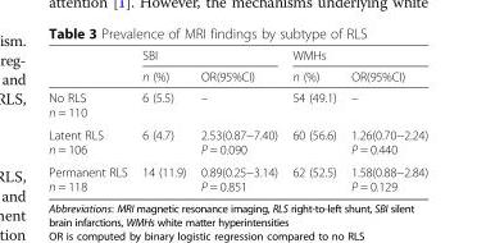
<table><thead><tr><td rowspan="2"></td><td colspan="2">SBI</td><td colspan="2">WMHs</td></tr><tr><td>n (%)</td><td>OR(95%CI)</td><td>n (%)</td><td>OR(95%CI)</td></tr></thead><tbody><tr><td>No RLS n = 110</td><td>6 (5.5)</td><td>–</td><td>54 (49.1)</td><td>–</td></tr><tr><td>Latent RLS n = 106</td><td>6 (4.7)</td><td>2.53(0.87−7.40) P = 0.090</td><td>60 (56.6)</td><td>1.26(0.70−2.24) P = 0.440</td></tr><tr><td>Permanent RLS n = 118</td><td>14 (11.9)</td><td>0.89(0.25−3.14) P = 0.851</td><td>62 (52.5)</td><td>1.58(0.88−2.84) P = 0.129</td></tr></tbody></table>